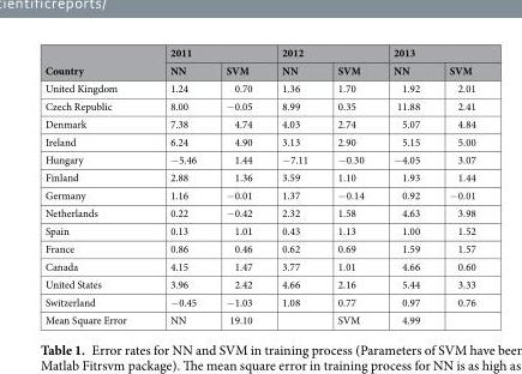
<table><thead><tr><td rowspan="2">Country</td><td colspan="2">2011</td><td colspan="2">2012</td><td colspan="2">2013</td></tr><tr><td>NN</td><td>SVM</td><td>NN</td><td>SVM</td><td>NN</td><td>SVM</td></tr></thead><tbody><tr><td>United Kingdom</td><td>1.24</td><td>0.70</td><td>1.36</td><td>1.70</td><td>1.92</td><td>2.01</td></tr><tr><td>Czech Republic</td><td>8.00</td><td>−0.05</td><td>8.99</td><td>0.35</td><td>11.88</td><td>2.41</td></tr><tr><td>Denmark</td><td>7.38</td><td>4.74</td><td>4.03</td><td>2.74</td><td>5.07</td><td>4.84</td></tr><tr><td>Ireland</td><td>6.24</td><td>4.90</td><td>3.13</td><td>2.90</td><td>5.15</td><td>5.00</td></tr><tr><td>Hungary</td><td>−5.46</td><td>1.44</td><td>−7.11</td><td>−0.30</td><td>−4.05</td><td>3.07</td></tr><tr><td>Finland</td><td>2.88</td><td>1.36</td><td>3.59</td><td>1.10</td><td>1.93</td><td>1.44</td></tr><tr><td>Germany</td><td>1.16</td><td>−0.01</td><td>1.37</td><td>−0.14</td><td>0.92</td><td>−0.01</td></tr><tr><td>Netherlands</td><td>0.22</td><td>−0.42</td><td>2.32</td><td>1.58</td><td>4.63</td><td>3.98</td></tr><tr><td>Spain</td><td>0.13</td><td>1.01</td><td>0.43</td><td>1.13</td><td>1.00</td><td>1.52</td></tr><tr><td>France</td><td>0.86</td><td>0.46</td><td>0.62</td><td>0.69</td><td>1.59</td><td>1.57</td></tr><tr><td>Canada</td><td>4.15</td><td>1.47</td><td>3.77</td><td>1.01</td><td>4.66</td><td>0.60</td></tr><tr><td>United States</td><td>3.96</td><td>2.42</td><td>4.66</td><td>2.16</td><td>5.44</td><td>3.33</td></tr><tr><td>Switzerland</td><td>−0.45</td><td>−1.03</td><td>1.08</td><td>0.77</td><td>0.97</td><td>0.76</td></tr><tr><td>Mean Square Error</td><td>NN</td><td>19.10</td><td></td><td>SVM</td><td>4.99</td><td></td></tr></tbody></table>